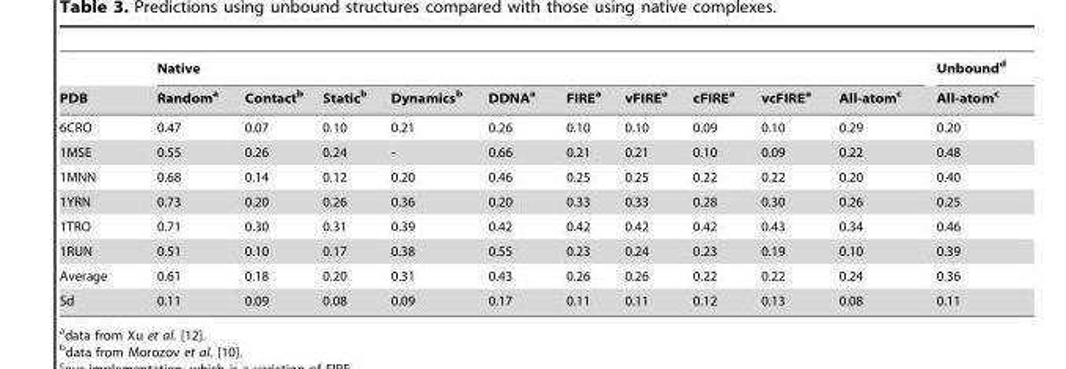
<table><thead><tr><td rowspan="2">PDB</td><td colspan="10">Native</td><td rowspan="2">Unbound<sup>d</sup> All-atom<sup>c</sup></td></tr><tr><td>Random<sup>a</sup></td><td>Contact<sup>b</sup></td><td>Static<sup>b</sup></td><td>Dynamics<sup>b</sup></td><td>DDNA<sup>a</sup></td><td>FIRE<sup>a</sup></td><td>vFIRE<sup>a</sup></td><td>cFIRE<sup>a</sup></td><td>vcFIRE<sup>a</sup></td><td>All-atom<sup>c</sup></td></tr></thead><tbody><tr><td>6CRO</td><td>0.47</td><td>0.07</td><td>0.10</td><td>0.21</td><td>0.26</td><td>0.10</td><td>0.10</td><td>0.09</td><td>0.10</td><td>0.29</td><td>0.20</td></tr><tr><td>1MSE</td><td>0.55</td><td>0.26</td><td>0.24</td><td>-</td><td>0.66</td><td>0.21</td><td>0.21</td><td>0.10</td><td>0.09</td><td>0.22</td><td>0.48</td></tr><tr><td>1MNN</td><td>0.68</td><td>0.14</td><td>0.12</td><td>0.20</td><td>0.46</td><td>0.25</td><td>0.25</td><td>0.22</td><td>0.22</td><td>0.20</td><td>0.40</td></tr><tr><td>1YRN</td><td>0.73</td><td>0.20</td><td>0.26</td><td>0.36</td><td>0.20</td><td>0.33</td><td>0.33</td><td>0.28</td><td>0.30</td><td>0.26</td><td>0.25</td></tr><tr><td>1TRO</td><td>0.71</td><td>0.30</td><td>0.31</td><td>0.39</td><td>0.42</td><td>0.42</td><td>0.42</td><td>0.42</td><td>0.43</td><td>0.34</td><td>0.46</td></tr><tr><td>1RUN</td><td>0.51</td><td>0.10</td><td>0.17</td><td>0.38</td><td>0.55</td><td>0.23</td><td>0.24</td><td>0.23</td><td>0.19</td><td>0.10</td><td>0.39</td></tr><tr><td>Average</td><td>0.61</td><td>0.18</td><td>0.20</td><td>0.31</td><td>0.43</td><td>0.26</td><td>0.26</td><td>0.22</td><td>0.22</td><td>0.24</td><td>0.36</td></tr><tr><td>Sd</td><td>0.11</td><td>0.09</td><td>0.08</td><td>0.09</td><td>0.17</td><td>0.11</td><td>0.11</td><td>0.12</td><td>0.13</td><td>0.08</td><td>0.11</td></tr></tbody></table>